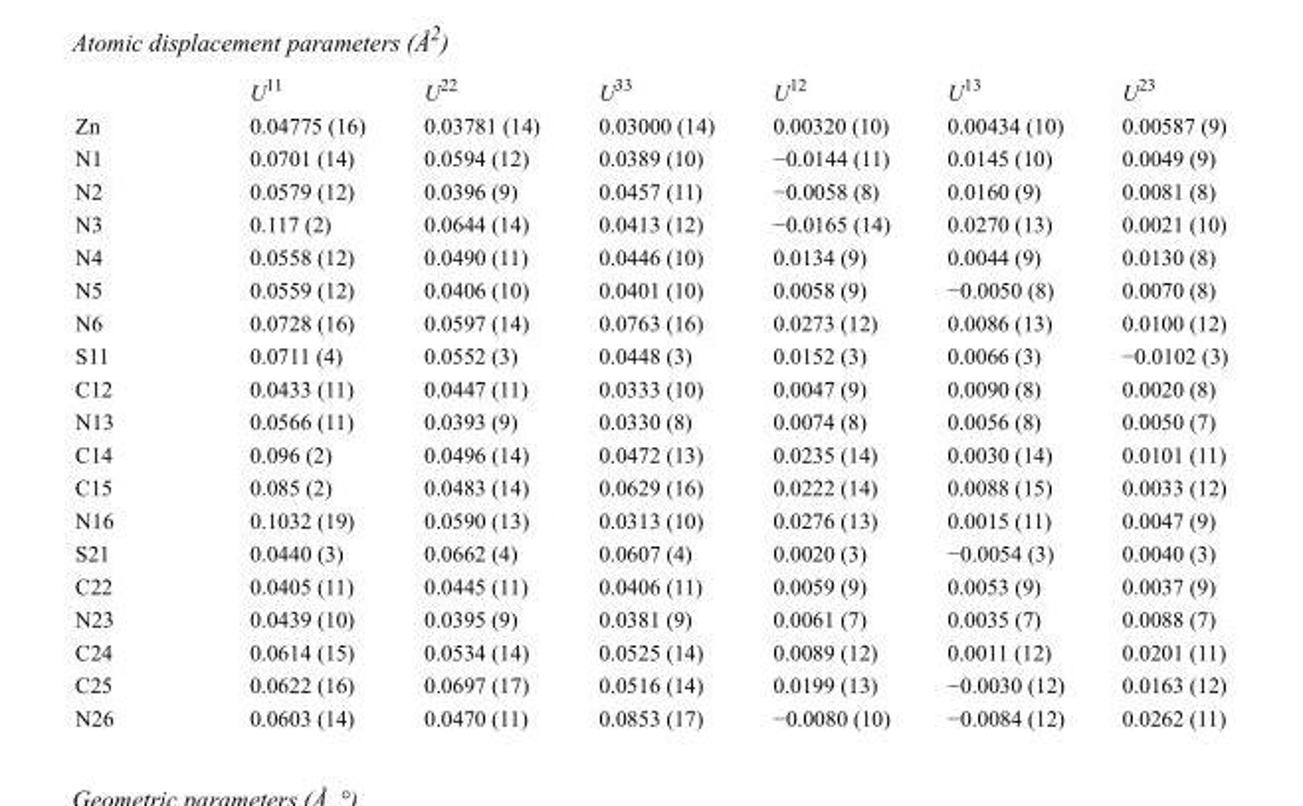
<table><thead><tr><td></td><td>U<sup>11</sup></td><td>U<sup>22</sup></td><td>U<sup>33</sup></td><td>U<sup>12</sup></td><td>U<sup>13</sup></td><td>U<sup>23</sup></td></tr></thead><tbody><tr><td>Zn</td><td>0.04775 (16)</td><td>0.03781 (14)</td><td>0.03000 (14)</td><td>0.00320 (10)</td><td>0.00434 (10)</td><td>0.00587 (9)</td></tr><tr><td>N1</td><td>0.0701 (14)</td><td>0.0594 (12)</td><td>0.0389 (10)</td><td>−0.0144 (11)</td><td>0.0145 (10)</td><td>0.0049 (9)</td></tr><tr><td>N2</td><td>0.0579 (12)</td><td>0.0396 (9)</td><td>0.0457 (11)</td><td>−0.0058 (8)</td><td>0.0160 (9)</td><td>0.0081 (8)</td></tr><tr><td>N3</td><td>0.117 (2)</td><td>0.0644 (14)</td><td>0.0413 (12)</td><td>−0.0165 (14)</td><td>0.0270 (13)</td><td>0.0021 (10)</td></tr><tr><td>N4</td><td>0.0558 (12)</td><td>0.0490 (11)</td><td>0.0446 (10)</td><td>0.0134 (9)</td><td>0.0044 (9)</td><td>0.0130 (8)</td></tr><tr><td>N5</td><td>0.0559 (12)</td><td>0.0406 (10)</td><td>0.0401 (10)</td><td>0.0058 (9)</td><td>−0.0050 (8)</td><td>0.0070 (8)</td></tr><tr><td>N6</td><td>0.0728 (16)</td><td>0.0597 (14)</td><td>0.0763 (16)</td><td>0.0273 (12)</td><td>0.0086 (13)</td><td>0.0100 (12)</td></tr><tr><td>S11</td><td>0.0711 (4)</td><td>0.0552 (3)</td><td>0.0448 (3)</td><td>0.0152 (3)</td><td>0.0066 (3)</td><td>−0.0102 (3)</td></tr><tr><td>C12</td><td>0.0433 (11)</td><td>0.0447 (11)</td><td>0.0333 (10)</td><td>0.0047 (9)</td><td>0.0090 (8)</td><td>0.0020 (8)</td></tr><tr><td>N13</td><td>0.0566 (11)</td><td>0.0393 (9)</td><td>0.0330 (8)</td><td>0.0074 (8)</td><td>0.0056 (8)</td><td>0.0050 (7)</td></tr><tr><td>C14</td><td>0.096 (2)</td><td>0.0496 (14)</td><td>0.0472 (13)</td><td>0.0235 (14)</td><td>0.0030 (14)</td><td>0.0101 (11)</td></tr><tr><td>C15</td><td>0.085 (2)</td><td>0.0483 (14)</td><td>0.0629 (16)</td><td>0.0222 (14)</td><td>0.0088 (15)</td><td>0.0033 (12)</td></tr><tr><td>N16</td><td>0.1032 (19)</td><td>0.0590 (13)</td><td>0.0313 (10)</td><td>0.0276 (13)</td><td>0.0015 (11)</td><td>0.0047 (9)</td></tr><tr><td>S21</td><td>0.0440 (3)</td><td>0.0662 (4)</td><td>0.0607 (4)</td><td>0.0020 (3)</td><td>−0.0054 (3)</td><td>0.0040 (3)</td></tr><tr><td>C22</td><td>0.0405 (11)</td><td>0.0445 (11)</td><td>0.0406 (11)</td><td>0.0059 (9)</td><td>0.0053 (9)</td><td>0.0037 (9)</td></tr><tr><td>N23</td><td>0.0439 (10)</td><td>0.0395 (9)</td><td>0.0381 (9)</td><td>0.0061 (7)</td><td>0.0035 (7)</td><td>0.0088 (7)</td></tr><tr><td>C24</td><td>0.0614 (15)</td><td>0.0534 (14)</td><td>0.0525 (14)</td><td>0.0089 (12)</td><td>0.0011 (12)</td><td>0.0201 (11)</td></tr><tr><td>C25</td><td>0.0622 (16)</td><td>0.0697 (17)</td><td>0.0516 (14)</td><td>0.0199 (13)</td><td>−0.0030 (12)</td><td>0.0163 (12)</td></tr><tr><td>N26</td><td>0.0603 (14)</td><td>0.0470 (11)</td><td>0.0853 (17)</td><td>−0.0080 (10)</td><td>−0.0084 (12)</td><td>0.0262 (11)</td></tr></tbody></table>